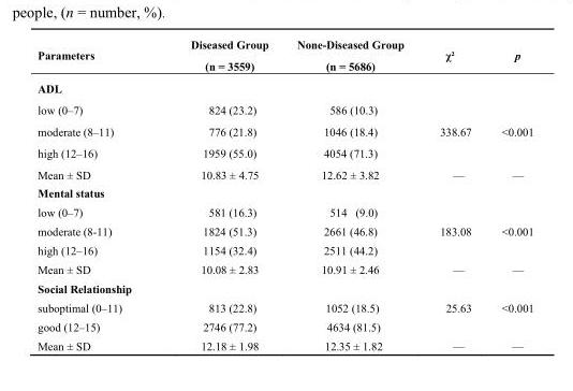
<table><thead><tr><td>Parameters</td><td>Diseased Group (n = 3559)</td><td>None-Diseased Group (n = 5686)</td><td>χ²</td><td>p</td></tr></thead><tbody><tr><td colspan="5">ADL</td></tr><tr><td>low (0–7)</td><td>824 (23.2)</td><td>586 (10.3)</td><td rowspan="3">338.67</td><td rowspan="3">&lt;0.001</td></tr><tr><td>moderate (8–11)</td><td>776 (21.8)</td><td>1046 (18.4)</td></tr><tr><td>high (12–16)</td><td>1959 (55.0)</td><td>4054 (71.3)</td></tr><tr><td>Mean ± SD</td><td>10.83 ± 4.75</td><td>12.62 ± 3.82</td><td>—</td><td>—</td></tr><tr><td colspan="5">Mental status</td></tr><tr><td>low (0–7)</td><td>581 (16.3)</td><td>514 (9.0)</td><td rowspan="3">183.08</td><td rowspan="3">&lt;0.001</td></tr><tr><td>moderate (8-11)</td><td>1824 (51.3)</td><td>2661 (46.8)</td></tr><tr><td>high (12–16)</td><td>1154 (32.4)</td><td>2511 (44.2)</td></tr><tr><td>Mean ± SD</td><td>10.08 ± 2.83</td><td>10.91 ± 2.46</td><td>—</td><td>—</td></tr><tr><td colspan="5">Social Relationship</td></tr><tr><td>suboptimal (0–11)</td><td>813 (22.8)</td><td>1052 (18.5)</td><td>25.63</td><td>&lt;0.001</td></tr><tr><td>good (12–15)</td><td>2746 (77.2)</td><td>4634 (81.5)</td><td></td><td></td></tr><tr><td>Mean ± SD</td><td>12.18 ± 1.98</td><td>12.35 ± 1.82</td><td>—</td><td>—</td></tr></tbody></table>